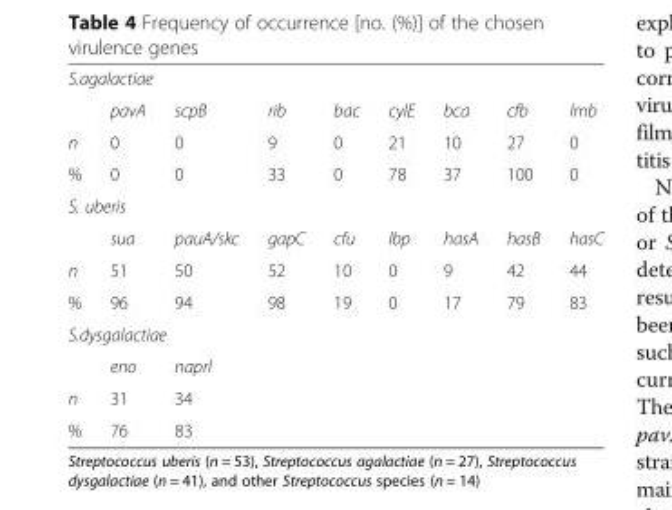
<table><tbody><tr><td colspan="9">S.agalactiae</td></tr><tr><td></td><td>pavA</td><td>scpB</td><td>rib</td><td>bac</td><td>cylE</td><td>bca</td><td>cfb</td><td>lmb</td></tr><tr><td>n</td><td>0</td><td>0</td><td>9</td><td>0</td><td>21</td><td>10</td><td>27</td><td>0</td></tr><tr><td>%</td><td>0</td><td>0</td><td>33</td><td>0</td><td>78</td><td>37</td><td>100</td><td>0</td></tr><tr><td colspan="9">S. uberis</td></tr><tr><td></td><td>sua</td><td>pauA/skc</td><td>gapC</td><td>cfu</td><td>lbp</td><td>hasA</td><td>hasB</td><td>hasC</td></tr><tr><td>n</td><td>51</td><td>50</td><td>52</td><td>10</td><td>0</td><td>9</td><td>42</td><td>44</td></tr><tr><td>%</td><td>96</td><td>94</td><td>98</td><td>19</td><td>0</td><td>17</td><td>79</td><td>83</td></tr><tr><td colspan="9">S.dysgalactiae</td></tr><tr><td></td><td>eno</td><td>naprl</td><td></td><td></td><td></td><td></td><td></td><td></td></tr><tr><td>n</td><td>31</td><td>34</td><td></td><td></td><td></td><td></td><td></td><td></td></tr><tr><td>%</td><td>76</td><td>83</td><td></td><td></td><td></td><td></td><td></td><td></td></tr></tbody></table>